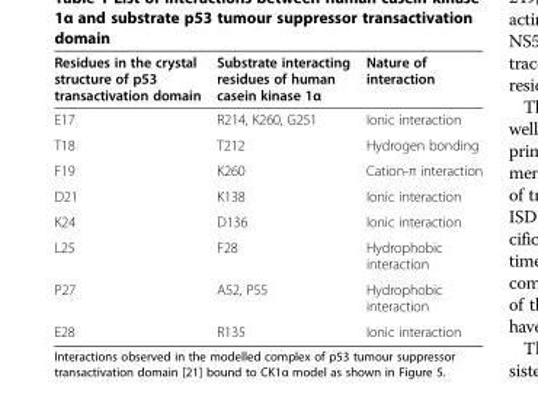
<table><thead><tr><td>Residues in the crystal structure of p53 transactivation domain</td><td>Substrate interacting residues of human casein kinase 1α</td><td>Nature of interaction</td></tr></thead><tbody><tr><td>E17</td><td>R214, K260, G251</td><td>Ionic interaction</td></tr><tr><td>T18</td><td>T212</td><td>Hydrogen bonding</td></tr><tr><td>F19</td><td>K260</td><td>Cation-π interaction</td></tr><tr><td>D21</td><td>K138</td><td>Ionic interaction</td></tr><tr><td>K24</td><td>D136</td><td>Ionic interaction</td></tr><tr><td>L25</td><td>F28</td><td>Hydrophobic interaction</td></tr><tr><td>P27</td><td>A52, P55</td><td>Hydrophobic interaction</td></tr><tr><td>E28</td><td>R135</td><td>Ionic interaction</td></tr></tbody></table>